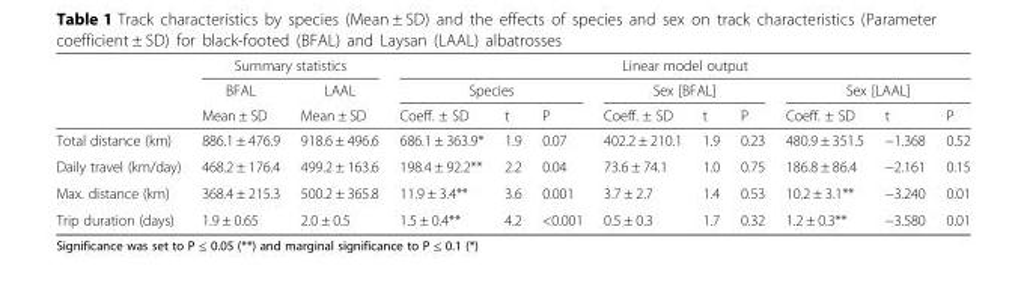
<table><thead><tr><td rowspan="3"></td><td colspan="2">Summary statistics</td><td colspan="9">Linear model output</td></tr><tr><td rowspan="2">BFAL Mean ± SD</td><td rowspan="2">LAAL Mean ± SD</td><td colspan="3">Species</td><td colspan="3">Sex [BFAL]</td><td colspan="3">Sex [LAAL]</td></tr><tr><td>Coeff. ± SD</td><td>t</td><td>P</td><td>Coeff. ± SD</td><td>t</td><td>P</td><td>Coeff. ± SD</td><td>t</td><td>P</td></tr></thead><tbody><tr><td>Total distance (km)</td><td>886.1 ± 476.9</td><td>918.6 ± 496.6</td><td>686.1 ± 363.9*</td><td>1.9</td><td>0.07</td><td>402.2 ± 210.1</td><td>1.9</td><td>0.23</td><td>480.9 ± 351.5</td><td>−1.368</td><td>0.52</td></tr><tr><td>Daily travel (km/day)</td><td>468.2 ± 176.4</td><td>499.2 ± 163.6</td><td>198.4 ± 92.2**</td><td>2.2</td><td>0.04</td><td>73.6 ± 74.1</td><td>1.0</td><td>0.75</td><td>186.8 ± 86.4</td><td>−2.161</td><td>0.15</td></tr><tr><td>Max. distance (km)</td><td>368.4 ± 215.3</td><td>500.2 ± 365.8</td><td>11.9 ± 3.4**</td><td>3.6</td><td>0.001</td><td>3.7 ± 2.7</td><td>1.4</td><td>0.53</td><td>10.2 ± 3.1**</td><td>−3.240</td><td>0.01</td></tr><tr><td>Trip duration (days)</td><td>1.9 ± 0.65</td><td>2.0 ± 0.5</td><td>1.5 ± 0.4**</td><td>4.2</td><td>&lt;0.001</td><td>0.5 ± 0.3</td><td>1.7</td><td>0.32</td><td>1.2 ± 0.3**</td><td>−3.580</td><td>0.01</td></tr></tbody></table>